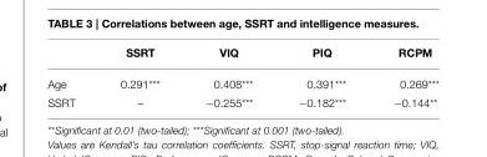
<table><thead><tr><td></td><td>SSRT</td><td>VIQ</td><td>PIQ</td><td>RCPM</td></tr></thead><tbody><tr><td>Age</td><td>0.291***</td><td>0.408***</td><td>0.391***</td><td>0.269***</td></tr><tr><td>SSRT</td><td>–</td><td>−0.255***</td><td>−0.182***</td><td>−0.144**</td></tr></tbody></table>